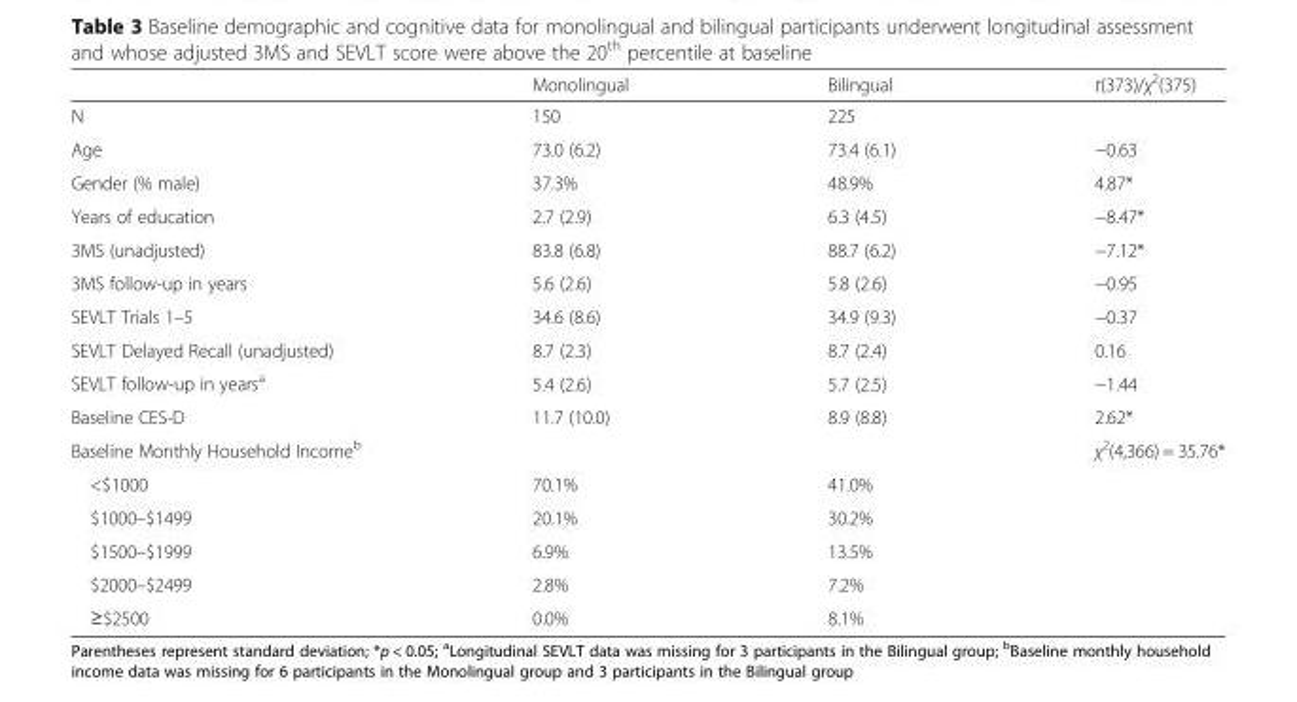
<table><thead><tr><td></td><td>Monolingual</td><td>Bilingual</td><td>t(373)/χ<sup>2</sup>(375)</td></tr></thead><tbody><tr><td>N</td><td>150</td><td colspan="2">225</td></tr><tr><td>Age</td><td>73.0 (6.2)</td><td>73.4 (6.1)</td><td>−0.63</td></tr><tr><td>Gender (% male)</td><td>37.3%</td><td>48.9%</td><td>4.87*</td></tr><tr><td>Years of education</td><td>2.7 (2.9)</td><td>6.3 (4.5)</td><td>−8.47*</td></tr><tr><td>3MS (unadjusted)</td><td>83.8 (6.8)</td><td>88.7 (6.2)</td><td>−7.12*</td></tr><tr><td>3MS follow-up in years</td><td>5.6 (2.6)</td><td>5.8 (2.6)</td><td>−0.95</td></tr><tr><td>SEVLT Trials 1–5</td><td>34.6 (8.6)</td><td>34.9 (9.3)</td><td>−0.37</td></tr><tr><td>SEVLT Delayed Recall (unadjusted)</td><td>8.7 (2.3)</td><td>8.7 (2.4)</td><td>0.16</td></tr><tr><td>SEVLT follow-up in years<sup>a</sup></td><td>5.4 (2.6)</td><td>5.7 (2.5)</td><td>−1.44</td></tr><tr><td>Baseline CES-D</td><td>11.7 (10.0)</td><td>8.9 (8.8)</td><td>2.62*</td></tr><tr><td colspan="3">Baseline Monthly Household Income<sup>b</sup></td><td>χ<sup>2</sup>(4,366) = 35.76*</td></tr><tr><td>&lt;$1000</td><td>70.1%</td><td>41.0%</td><td rowspan="5"></td></tr><tr><td>$1000–$1499</td><td>20.1%</td><td>30.2%</td></tr><tr><td>$1500–$1999</td><td>6.9%</td><td>13.5%</td></tr><tr><td>$2000–$2499</td><td>2.8%</td><td>7.2%</td></tr><tr><td>≥$2500</td><td>0.0%</td><td>8.1%</td></tr></tbody></table>